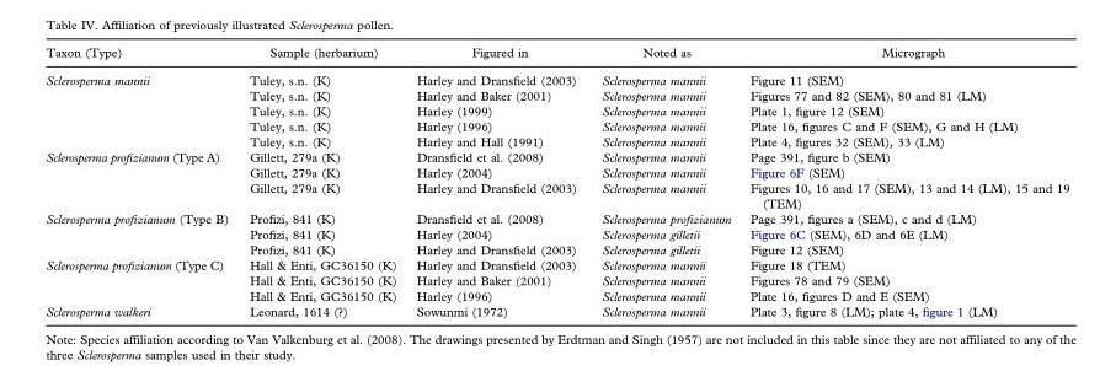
<table><thead><tr><td>Taxon (Type)</td><td>Sample (herbarium)</td><td>Figured in</td><td>Noted as</td><td>Micrograph</td></tr></thead><tbody><tr><td rowspan="5">Sclerosperma mannii</td><td>Tuley, s.n. (K)</td><td>Harley and Dransfield (2003)</td><td>Sclerosperma mannii</td><td>Figure 11 (SEM)</td></tr><tr><td>Tuley, s.n. (K)</td><td>Harley and Baker (2001)</td><td>Sclerosperma mannii</td><td>Figures 77 and 82 (SEM), 80 and 81 (LM)</td></tr><tr><td>Tuley, s.n. (K)</td><td>Harley (1999)</td><td>Sclerosperma mannii</td><td>Plate 1, figure 12 (SEM)</td></tr><tr><td>Tuley, s.n. (K)</td><td>Harley (1996)</td><td>Sclerosperma mannii</td><td>Plate 16, figures C and F (SEM), G and H (LM)</td></tr><tr><td>Tuley, s.n. (K)</td><td>Harley and Hall (1991)</td><td>Sclerosperma mannii</td><td>Plate 4, figures 32 (SEM), 33 (LM)</td></tr><tr><td rowspan="3">Sclerosperma profizianum (Type A)</td><td>Gillett, 279a (K)</td><td>Dransfield et al. (2008)</td><td>Sclerosperma mannii</td><td>Page 391, figure b (SEM)</td></tr><tr><td>Gillett, 279a (K)</td><td>Harley (2004)</td><td>Sclerosperma mannii</td><td>Figure 6F (SEM)</td></tr><tr><td>Gillett, 279a (K)</td><td>Harley and Dransfield (2003)</td><td>Sclerosperma mannii</td><td>Figures 10, 16 and 17 (SEM), 13 and 14 (LM), 15 and 19 (TEM)</td></tr><tr><td rowspan="3">Sclerosperma profizianum (Type B)</td><td>Profizi, 841 (K)</td><td>Dransfield et al. (2008)</td><td>Sclerosperma profizianum</td><td>Page 391, figures a (SEM), c and d (LM)</td></tr><tr><td>Profizi, 841 (K)</td><td>Harley (2004)</td><td>Sclerosperma gilletii</td><td>Figure 6C (SEM), 6D and 6E (LM)</td></tr><tr><td>Profizi, 841 (K)</td><td>Harley and Dransfield (2003)</td><td>Sclerosperma gilletii</td><td>Figure 12 (SEM)</td></tr><tr><td rowspan="3">Sclerosperma profizianum (Type C)</td><td>Hall &amp; Enti, GC36150 (K)</td><td>Harley and Dransfield (2003)</td><td>Sclerosperma mannii</td><td>Figure 18 (TEM)</td></tr><tr><td>Hall &amp; Enti, GC36150 (K)</td><td>Harley and Baker (2001)</td><td>Sclerosperma mannii</td><td>Figures 78 and 79 (SEM)</td></tr><tr><td>Hall &amp; Enti, GC36150 (K)</td><td>Harley (1996)</td><td>Sclerosperma mannii</td><td>Plate 16, figures D and E (SEM)</td></tr><tr><td>Sclerosperma walkeri</td><td>Leonard, 1614 (?)</td><td>Sowunmi (1972)</td><td>Sclerosperma mannii</td><td>Plate 3, figure 8 (LM); plate 4, figure 1 (LM)</td></tr></tbody></table>